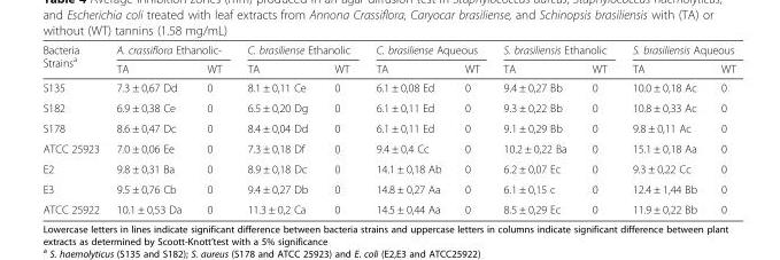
<table><thead><tr><td rowspan="2">Bacteria Strains<sup>a</sup></td><td colspan="2">A. crassiflora Ethanolic-</td><td colspan="2">C. brasiliense Ethanolic</td><td colspan="2">C. brasiliense Aqueous</td><td colspan="2">S. brasiliensis Ethanolic</td><td colspan="2">S. brasiliensis Aqueous</td></tr><tr><td>TA</td><td>WT</td><td>TA</td><td>WT</td><td>TA</td><td>WT</td><td>TA</td><td>WT</td><td>TA</td><td>WT</td></tr></thead><tbody><tr><td>S135</td><td>7.3 ± 0,67 Dd</td><td>0</td><td>8.1 ± 0,11 Ce</td><td>0</td><td>6.1 ± 0,08 Ed</td><td>0</td><td>9.4 ± 0,27 Bb</td><td>0</td><td>10.0 ± 0,18 Ac</td><td>0</td></tr><tr><td>S182</td><td>6.9 ± 0,38 Ce</td><td>0</td><td>6.5 ± 0,20 Dg</td><td>0</td><td>6.1 ± 0,11 Ed</td><td>0</td><td>9.3 ± 0,22 Bb</td><td>0</td><td>10.8 ± 0,33 Ac</td><td>0</td></tr><tr><td>S178</td><td>8.6 ± 0,47 Dc</td><td>0</td><td>8.4 ± 0,04 Dd</td><td>0</td><td>6.1 ± 0,11 Ed</td><td>0</td><td>9.1 ± 0,29 Bb</td><td>0</td><td>9.8 ± 0,11 Ac</td><td>0</td></tr><tr><td>ATCC 25923</td><td>7.0 ± 0,06 Ee</td><td>0</td><td>7.3 ± 0,18 Df</td><td>0</td><td>9.4 ± 0,4 Cc</td><td>0</td><td>10.2 ± 0,22 Ba</td><td>0</td><td>15.1 ± 0,18 Aa</td><td>0</td></tr><tr><td>E2</td><td>9.8 ± 0,31 Ba</td><td>0</td><td>8.9 ± 0,18 Dc</td><td>0</td><td>14.1 ± 0,18 Ab</td><td>0</td><td>6.2 ± 0,07 Ec</td><td>0</td><td>9.3 ± 0,22 Cc</td><td>0</td></tr><tr><td>E3</td><td>9.5 ± 0,76 Cb</td><td>0</td><td>9.4 ± 0,27 Db</td><td>0</td><td>14.8 ± 0,27 Aa</td><td>0</td><td>6.1 ± 0,15 c</td><td>0</td><td>12.4 ± 1,44 Bb</td><td>0</td></tr><tr><td>ATCC 25922</td><td>10.1 ± 0,53 Da</td><td>0</td><td>11.3 ± 0,2 Ca</td><td>0</td><td>14.5 ± 0,44 Aa</td><td>0</td><td>8.5 ± 0,29 Ec</td><td>0</td><td>11.9 ± 0,22 Bb</td><td>0</td></tr></tbody></table>